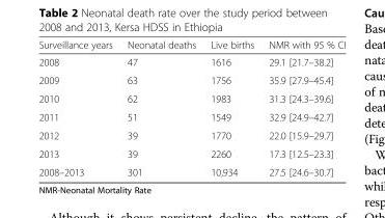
<table><thead><tr><td>Surveillance years</td><td>Neonatal deaths</td><td>Live births</td><td>NMR with 95 % CI</td></tr></thead><tbody><tr><td>2008</td><td>47</td><td>1616</td><td>29.1 [21.7–38.2]</td></tr><tr><td>2009</td><td>63</td><td>1756</td><td>35.9 [27.9–45.4]</td></tr><tr><td>2010</td><td>62</td><td>1983</td><td>31.3 [24.3–39.6]</td></tr><tr><td>2011</td><td>51</td><td>1549</td><td>32.9 [24.9–42.7]</td></tr><tr><td>2012</td><td>39</td><td>1770</td><td>22.0 [15.9–29.7]</td></tr><tr><td>2013</td><td>39</td><td>2260</td><td>17.3 [12.5–23.3]</td></tr><tr><td>2008–2013</td><td>301</td><td>10,934</td><td>27.5 [24.6–30.7]</td></tr></tbody></table>